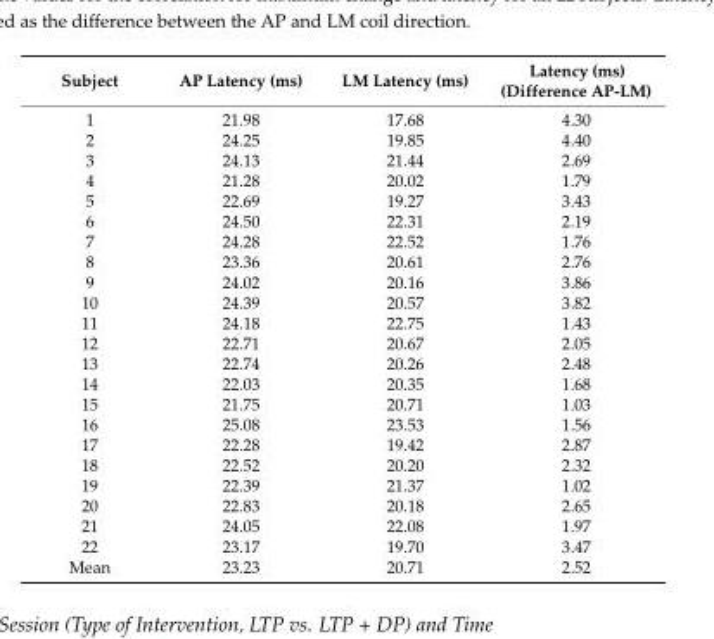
<table><thead><tr><td>Subject</td><td>AP Latency (ms)</td><td>LM Latency (ms)</td><td>Latency (ms) (Difference AP-LM)</td></tr></thead><tbody><tr><td>1</td><td>21.98</td><td>17.68</td><td>4.30</td></tr><tr><td>2</td><td>24.25</td><td>19.85</td><td>4.40</td></tr><tr><td>3</td><td>24.13</td><td>21.44</td><td>2.69</td></tr><tr><td>4</td><td>21.28</td><td>20.02</td><td>1.79</td></tr><tr><td>5</td><td>22.69</td><td>19.27</td><td>3.43</td></tr><tr><td>6</td><td>24.50</td><td>22.31</td><td>2.19</td></tr><tr><td>7</td><td>24.28</td><td>22.52</td><td>1.76</td></tr><tr><td>8</td><td>23.36</td><td>20.61</td><td>2.76</td></tr><tr><td>9</td><td>24.02</td><td>20.16</td><td>3.86</td></tr><tr><td>10</td><td>24.39</td><td>20.57</td><td>3.82</td></tr><tr><td>11</td><td>24.18</td><td>22.75</td><td>1.43</td></tr><tr><td>12</td><td>22.71</td><td>20.67</td><td>2.05</td></tr><tr><td>13</td><td>22.74</td><td>20.26</td><td>2.48</td></tr><tr><td>14</td><td>22.03</td><td>20.35</td><td>1.68</td></tr><tr><td>15</td><td>21.75</td><td>20.71</td><td>1.03</td></tr><tr><td>16</td><td>25.08</td><td>23.53</td><td>1.56</td></tr><tr><td>17</td><td>22.28</td><td>19.42</td><td>2.87</td></tr><tr><td>18</td><td>22.52</td><td>20.20</td><td>2.32</td></tr><tr><td>19</td><td>22.39</td><td>21.37</td><td>1.02</td></tr><tr><td>20</td><td>22.83</td><td>20.18</td><td>2.65</td></tr><tr><td>21</td><td>24.05</td><td>22.08</td><td>1.97</td></tr><tr><td>22</td><td>23.17</td><td>19.70</td><td>3.47</td></tr><tr><td>Mean</td><td>23.23</td><td>20.71</td><td>2.52</td></tr></tbody></table>